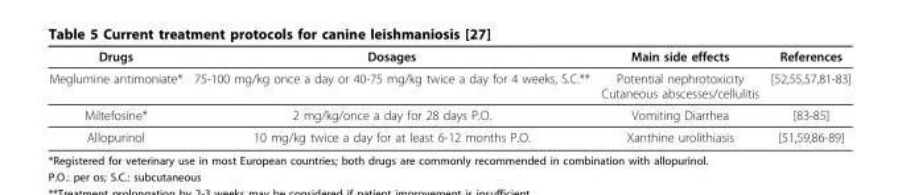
<table><thead><tr><td>Drugs</td><td>Dosages</td><td>Main side effects</td><td>References</td></tr></thead><tbody><tr><td>Meglumine antimoniate*</td><td>75-100 mg/kg once a day or 40-75 mg/kg twice a day for 4 weeks, S.C.**</td><td>Potential nephrotoxicity Cutaneous abscesses/cellulitis</td><td>[52,55,57,81-83]</td></tr><tr><td>Miltefosine*</td><td>2 mg/kg/once a day for 28 days P.O.</td><td>Vomiting Diarrhea</td><td>[83-85]</td></tr><tr><td>Allopurinol</td><td>10 mg/kg twice a day for at least 6-12 months P.O.</td><td>Xanthine urolithiasis</td><td>[51,59,86-89]</td></tr></tbody></table>